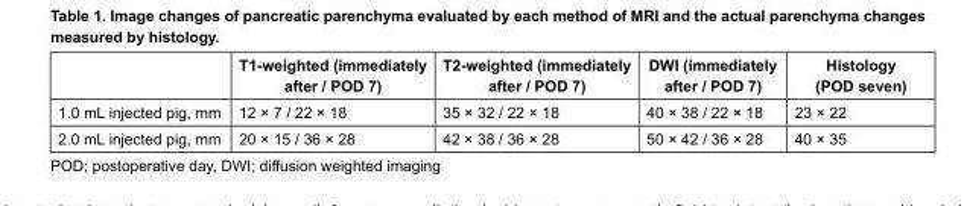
<table><thead><tr><td></td><td>T1-weighted (immediately after / POD 7)</td><td>T2-weighted (immediately after / POD 7)</td><td>DWI (immediately after / POD 7)</td><td>Histology (POD seven)</td></tr></thead><tbody><tr><td>1.0 mL injected pig, mm</td><td>12 × 7 / 22 × 18</td><td>35 × 32 / 22 × 18</td><td>40 × 38 / 22 × 18</td><td>23 × 22</td></tr><tr><td>2.0 mL injected pig, mm</td><td>20 × 15 / 36 × 28</td><td>42 × 38 / 36 × 28</td><td>50 × 42 / 36 × 28</td><td>40 × 35</td></tr></tbody></table>